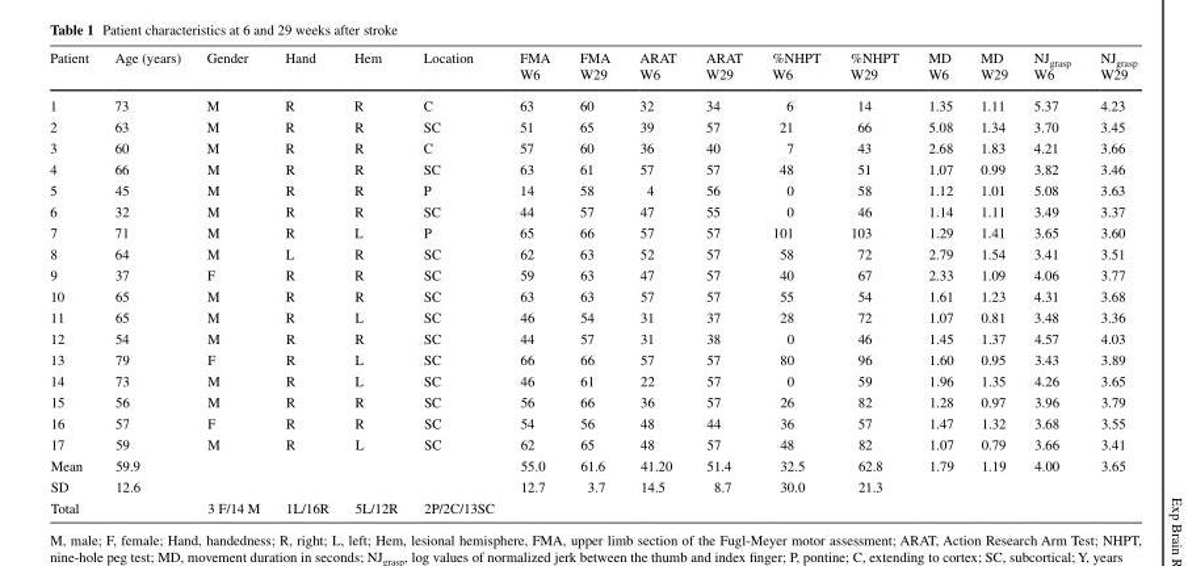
<table><thead><tr><td>Patient</td><td>Age (years)</td><td>Gender</td><td>Hand</td><td>Hem</td><td>Location</td><td>FMA W6</td><td>FMA W29</td><td>ARAT W6</td><td>ARAT W29</td><td>%NHPT W6</td><td>%NHPT W29</td><td>MD W6</td><td>MD W29</td><td>NJ<sub>grasp</sub> W6</td><td>NJ<sub>grasp</sub> W29</td></tr></thead><tbody><tr><td>1</td><td>73</td><td>M</td><td>R</td><td>R</td><td>C</td><td>63</td><td>60</td><td>32</td><td>34</td><td>6</td><td>14</td><td>1.35</td><td>1.11</td><td>5.37</td><td>4.23</td></tr><tr><td>2</td><td>63</td><td>M</td><td>R</td><td>R</td><td>SC</td><td>51</td><td>65</td><td>39</td><td>57</td><td>21</td><td>66</td><td>5.08</td><td>1.34</td><td>3.70</td><td>3.45</td></tr><tr><td>3</td><td>60</td><td>M</td><td>R</td><td>R</td><td>C</td><td>57</td><td>60</td><td>36</td><td>40</td><td>7</td><td>43</td><td>2.68</td><td>1.83</td><td>4.21</td><td>3.66</td></tr><tr><td>4</td><td>66</td><td>M</td><td>R</td><td>R</td><td>SC</td><td>63</td><td>61</td><td>57</td><td>57</td><td>48</td><td>51</td><td>1.07</td><td>0.99</td><td>3.82</td><td>3.46</td></tr><tr><td>5</td><td>45</td><td>M</td><td>R</td><td>R</td><td>P</td><td>14</td><td>58</td><td>4</td><td>56</td><td>0</td><td>58</td><td>1.12</td><td>1.01</td><td>5.08</td><td>3.63</td></tr><tr><td>6</td><td>32</td><td>M</td><td>R</td><td>R</td><td>SC</td><td>44</td><td>57</td><td>47</td><td>55</td><td>0</td><td>46</td><td>1.14</td><td>1.11</td><td>3.49</td><td>3.37</td></tr><tr><td>7</td><td>71</td><td>M</td><td>R</td><td>L</td><td>P</td><td>65</td><td>66</td><td>57</td><td>57</td><td>101</td><td>103</td><td>1.29</td><td>1.41</td><td>3.65</td><td>3.60</td></tr><tr><td>8</td><td>64</td><td>M</td><td>L</td><td>R</td><td>SC</td><td>62</td><td>63</td><td>52</td><td>57</td><td>58</td><td>72</td><td>2.79</td><td>1.54</td><td>3.41</td><td>3.51</td></tr><tr><td>9</td><td>37</td><td>F</td><td>R</td><td>R</td><td>SC</td><td>59</td><td>63</td><td>47</td><td>57</td><td>40</td><td>67</td><td>2.33</td><td>1.09</td><td>4.06</td><td>3.77</td></tr><tr><td>10</td><td>65</td><td>M</td><td>R</td><td>R</td><td>SC</td><td>63</td><td>63</td><td>57</td><td>57</td><td>55</td><td>54</td><td>1.61</td><td>1.23</td><td>4.31</td><td>3.68</td></tr><tr><td>11</td><td>65</td><td>M</td><td>R</td><td>L</td><td>SC</td><td>46</td><td>54</td><td>31</td><td>37</td><td>28</td><td>72</td><td>1.07</td><td>0.81</td><td>3.48</td><td>3.36</td></tr><tr><td>12</td><td>54</td><td>M</td><td>R</td><td>R</td><td>SC</td><td>44</td><td>57</td><td>31</td><td>38</td><td>0</td><td>46</td><td>1.45</td><td>1.37</td><td>4.57</td><td>4.03</td></tr><tr><td>13</td><td>79</td><td>F</td><td>R</td><td>L</td><td>SC</td><td>66</td><td>66</td><td>57</td><td>57</td><td>80</td><td>96</td><td>1.60</td><td>0.95</td><td>3.43</td><td>3.89</td></tr><tr><td>14</td><td>73</td><td>M</td><td>R</td><td>L</td><td>SC</td><td>46</td><td>61</td><td>22</td><td>57</td><td>0</td><td>59</td><td>1.96</td><td>1.35</td><td>4.26</td><td>3.65</td></tr><tr><td>15</td><td>56</td><td>M</td><td>R</td><td>R</td><td>SC</td><td>56</td><td>66</td><td>36</td><td>57</td><td>26</td><td>82</td><td>1.28</td><td>0.97</td><td>3.96</td><td>3.79</td></tr><tr><td>16</td><td>57</td><td>F</td><td>R</td><td>R</td><td>SC</td><td>54</td><td>56</td><td>48</td><td>44</td><td>36</td><td>57</td><td>1.47</td><td>1.32</td><td>3.68</td><td>3.55</td></tr><tr><td>17</td><td>59</td><td>M</td><td>R</td><td>L</td><td>SC</td><td>62</td><td>65</td><td>48</td><td>57</td><td>48</td><td>82</td><td>1.07</td><td>0.79</td><td>3.66</td><td>3.41</td></tr><tr><td>Mean</td><td>59.9</td><td></td><td></td><td></td><td></td><td>55.0</td><td>61.6</td><td>41.20</td><td>51.4</td><td>32.5</td><td>62.8</td><td>1.79</td><td>1.19</td><td>4.00</td><td>3.65</td></tr><tr><td>SD</td><td>12.6</td><td></td><td></td><td></td><td></td><td>12.7</td><td>3.7</td><td>14.5</td><td>8.7</td><td>30.0</td><td>21.3</td><td></td><td></td><td></td><td></td></tr><tr><td>Total</td><td></td><td>3 F/14 M</td><td>1L/16R</td><td>5L/12R</td><td>2P/2C/13SC</td><td></td><td></td><td></td><td></td><td></td><td></td><td></td><td></td><td></td><td></td></tr></tbody></table>